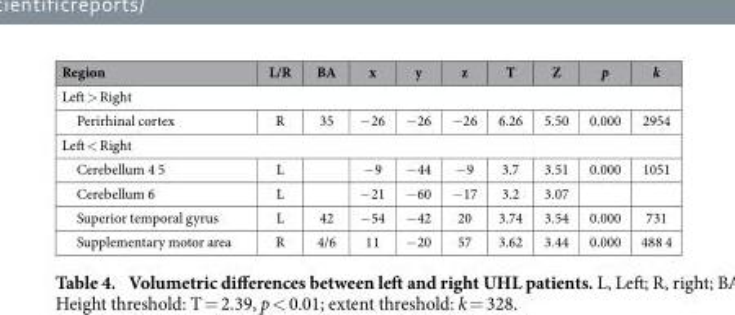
<table><thead><tr><td>Region</td><td>L/R</td><td>BA</td><td>x</td><td>y</td><td>z</td><td>T</td><td>Z</td><td>p</td><td>k</td></tr></thead><tbody><tr><td colspan="10">Left &gt; Right</td></tr><tr><td>Perirhinal cortex</td><td>R</td><td>35</td><td>− 26</td><td>− 26</td><td>− 26</td><td>6.26</td><td>5.50</td><td>0.000</td><td>2954</td></tr><tr><td colspan="10">Left &lt; Right</td></tr><tr><td>Cerebellum 4 5</td><td>L</td><td></td><td>− 9</td><td>− 44</td><td>− 9</td><td>3.7</td><td>3.51</td><td>0.000</td><td>1051</td></tr><tr><td>Cerebellum 6</td><td>L</td><td></td><td>− 21</td><td>− 60</td><td>− 17</td><td>3.2</td><td>3.07</td><td></td><td></td></tr><tr><td>Superior temporal gyrus</td><td>L</td><td>42</td><td>− 54</td><td>− 42</td><td>20</td><td>3.74</td><td>3.54</td><td>0.000</td><td>731</td></tr><tr><td>Supplementary motor area</td><td>R</td><td>4/6</td><td>11</td><td>− 20</td><td>57</td><td>3.62</td><td>3.44</td><td>0.000</td><td>488 4</td></tr></tbody></table>